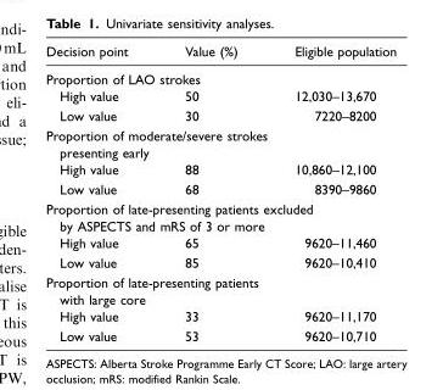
<table><thead><tr><td>Decision point</td><td>Value (%)</td><td>Eligible population</td></tr></thead><tbody><tr><td colspan="3">Proportion of LAO strokes</td></tr><tr><td>High value</td><td>50</td><td>12,030–13,670</td></tr><tr><td>Low value</td><td>30</td><td>7220–8200</td></tr><tr><td colspan="3">Proportion of moderate/severe strokes presenting early</td></tr><tr><td>High value</td><td>88</td><td>10,860–12,100</td></tr><tr><td>Low value</td><td>68</td><td>8390–9860</td></tr><tr><td colspan="3">Proportion of late-presenting patients excluded by ASPECTS and mRS of 3 or more</td></tr><tr><td>High value</td><td>65</td><td>9620–11,460</td></tr><tr><td>Low value</td><td>85</td><td>9620–10,410</td></tr><tr><td colspan="3">Proportion of late-presenting patients with large core</td></tr><tr><td>High value</td><td>33</td><td>9620–11,170</td></tr><tr><td>Low value</td><td>53</td><td>9620–10,710</td></tr></tbody></table>